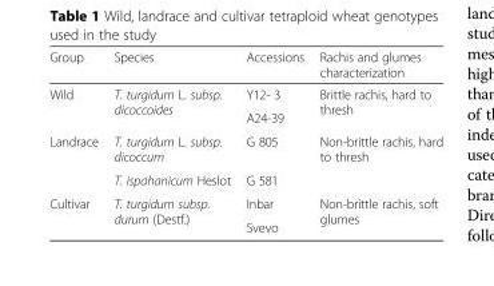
<table><thead><tr><td>Group</td><td>Species</td><td>Accessions</td><td>Rachis and glumes characterization</td></tr></thead><tbody><tr><td rowspan="2">Wild</td><td rowspan="2">T. turgidum L. subsp. dicoccoides</td><td>Y12- 3</td><td rowspan="2">Brittle rachis, hard to thresh</td></tr><tr><td>A24-39</td></tr><tr><td rowspan="2">Landrace</td><td>T. turgidum L. subsp. dicoccum</td><td>G 805</td><td rowspan="2">Non-brittle rachis, hard to thresh</td></tr><tr><td>T. ispahanicum Heslot</td><td>G 581</td></tr><tr><td rowspan="2">Cultivar</td><td rowspan="2">T. turgidum subsp. durum (Destf.)</td><td>Inbar</td><td rowspan="2">Non-brittle rachis, soft glumes</td></tr><tr><td>Svevo</td></tr></tbody></table>